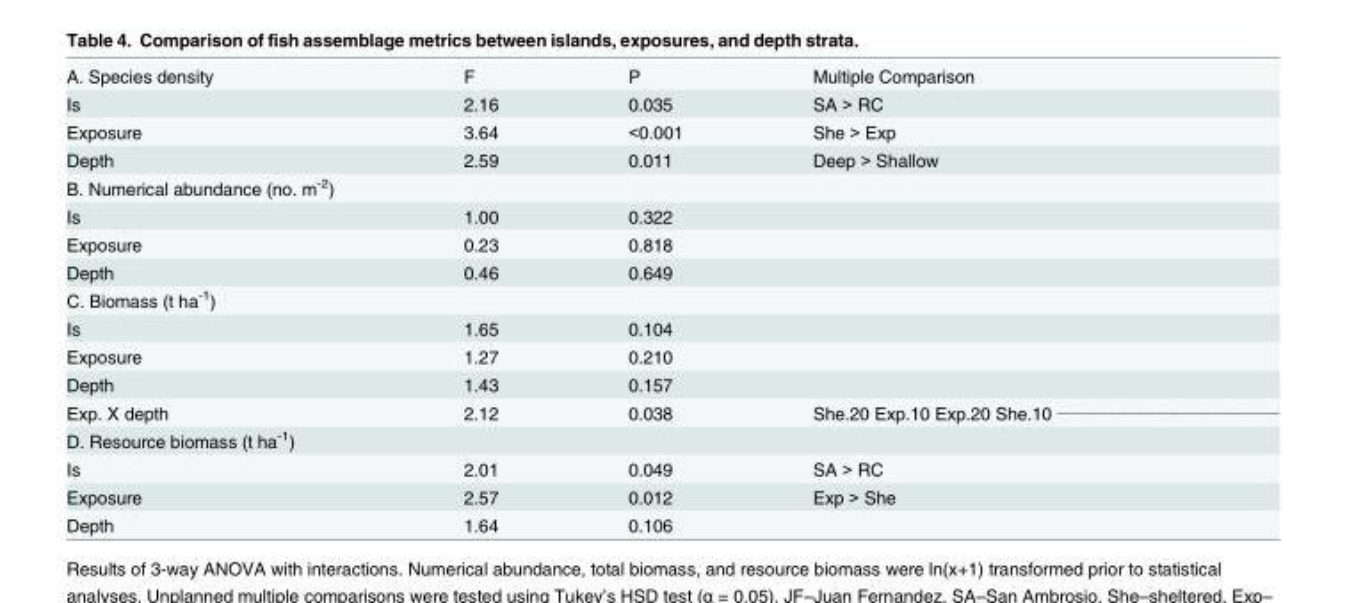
<table><tbody><tr><td>A. Species density</td><td>F</td><td>P</td><td>Multiple Comparison</td></tr><tr><td>Is</td><td>2.16</td><td>0.035</td><td>SA &gt; RC</td></tr><tr><td>Exposure</td><td>3.64</td><td>&lt;0.001</td><td>She &gt; Exp</td></tr><tr><td>Depth</td><td>2.59</td><td>0.011</td><td>Deep &gt; Shallow</td></tr><tr><td colspan="4">B. Numerical abundance (no. m<sup>-2</sup>)</td></tr><tr><td>Is</td><td>1.00</td><td>0.322</td><td></td></tr><tr><td>Exposure</td><td>0.23</td><td>0.818</td><td></td></tr><tr><td>Depth</td><td>0.46</td><td>0.649</td><td></td></tr><tr><td colspan="4">C. Biomass (t ha<sup>-1</sup>)</td></tr><tr><td>Is</td><td>1.65</td><td>0.104</td><td></td></tr><tr><td>Exposure</td><td>1.27</td><td>0.210</td><td></td></tr><tr><td>Depth</td><td>1.43</td><td>0.157</td><td></td></tr><tr><td>Exp. X depth</td><td>2.12</td><td>0.038</td><td>She.20 Exp.10 Exp.20 She.10 ______________________________</td></tr><tr><td colspan="4">D. Resource biomass (t ha<sup>-1</sup>)</td></tr><tr><td>Is</td><td>2.01</td><td>0.049</td><td>SA &gt; RC</td></tr><tr><td>Exposure</td><td>2.57</td><td>0.012</td><td>Exp &gt; She</td></tr><tr><td>Depth</td><td>1.64</td><td>0.106</td><td></td></tr></tbody></table>